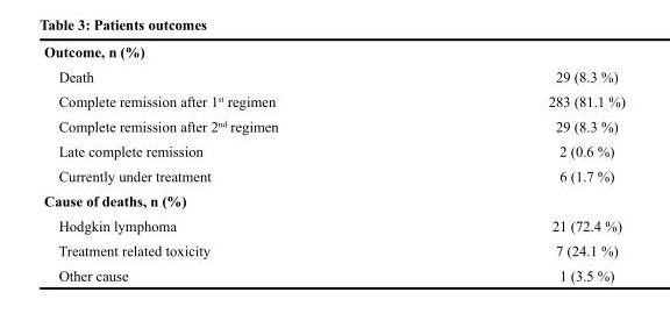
<table><tbody><tr><td colspan="2">Outcome, n (%)</td></tr><tr><td>Death</td><td>29 (8.3 %)</td></tr><tr><td>Complete remission after 1<sup>st</sup> regimen</td><td>283 (81.1 %)</td></tr><tr><td>Complete remission after 2<sup>nd</sup> regimen</td><td>29 (8.3 %)</td></tr><tr><td>Late complete remission</td><td>2 (0.6 %)</td></tr><tr><td>Currently under treatment</td><td>6 (1.7 %)</td></tr><tr><td colspan="2">Cause of deaths, n (%)</td></tr><tr><td>Hodgkin lymphoma</td><td>21 (72.4 %)</td></tr><tr><td>Treatment related toxicity</td><td>7 (24.1 %)</td></tr><tr><td>Other cause</td><td>1 (3.5 %)</td></tr></tbody></table>